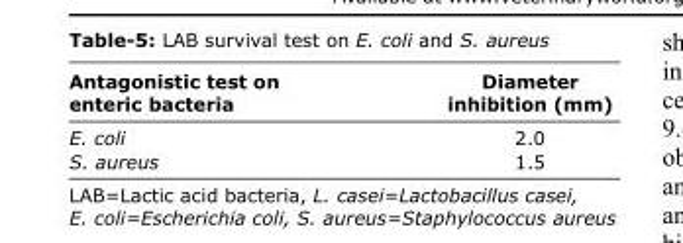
<table><thead><tr><td>Antagonistic test on enteric bacteria</td><td>Diameter inhibition (mm)</td></tr></thead><tbody><tr><td>E. coli</td><td>2.0</td></tr><tr><td>S. aureus</td><td>1.5</td></tr></tbody></table>